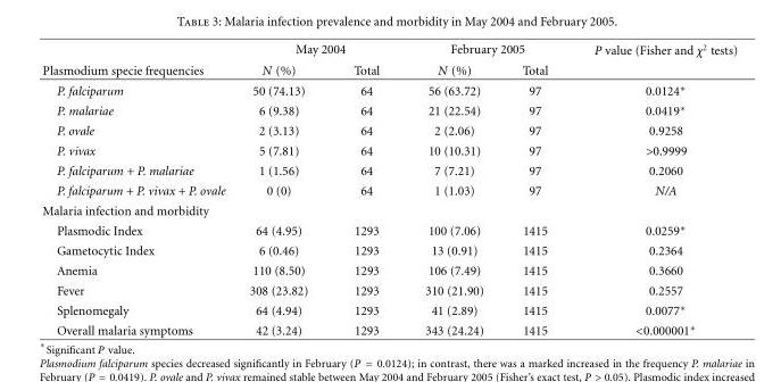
<table><thead><tr><td rowspan="2">Plasmodium specie frequencies</td><td colspan="2">May 2004</td><td colspan="2">February 2005</td><td rowspan="2">P value (Fisher and χ<sup>2</sup> tests)</td></tr><tr><td>N (%)</td><td>Total</td><td>N (%)</td><td>Total</td></tr></thead><tbody><tr><td>P. falciparum</td><td>50 (74.13)</td><td>64</td><td>56 (63.72)</td><td>97</td><td>0.0124∗</td></tr><tr><td>P. malariae</td><td>6 (9.38)</td><td>64</td><td>21 (22.54)</td><td>97</td><td>0.0419∗</td></tr><tr><td>P. ovale</td><td>2 (3.13)</td><td>64</td><td>2 (2.06)</td><td>97</td><td>0.9258</td></tr><tr><td>P. vivax</td><td>5 (7.81)</td><td>64</td><td>10 (10.31)</td><td>97</td><td>&gt;0.9999</td></tr><tr><td>P. falciparum + P. malariae</td><td>1 (1.56)</td><td>64</td><td>7 (7.21)</td><td>97</td><td>0.2060</td></tr><tr><td>P. falciparum + P. vivax + P. ovale</td><td>0 (0)</td><td>64</td><td>1 (1.03)</td><td>97</td><td>N/A</td></tr><tr><td colspan="6">Malaria infection and morbidity</td></tr><tr><td>Plasmodic Index</td><td>64 (4.95)</td><td>1293</td><td>100 (7.06)</td><td>1415</td><td>0.0259∗</td></tr><tr><td>Gametocytic Index</td><td>6 (0.46)</td><td>1293</td><td>13 (0.91)</td><td>1415</td><td>0.2364</td></tr><tr><td>Anemia</td><td>110 (8.50)</td><td>1293</td><td>106 (7.49)</td><td>1415</td><td>0.3660</td></tr><tr><td>Fever</td><td>308 (23.82)</td><td>1293</td><td>310 (21.90)</td><td>1415</td><td>0.2557</td></tr><tr><td>Splenomegaly</td><td>64 (4.94)</td><td>1293</td><td>41 (2.89)</td><td>1415</td><td>0.0077∗</td></tr><tr><td>Overall malaria symptoms</td><td>42 (3.24)</td><td>1293</td><td>343 (24.24)</td><td>1415</td><td>&lt;0.000001∗</td></tr></tbody></table>